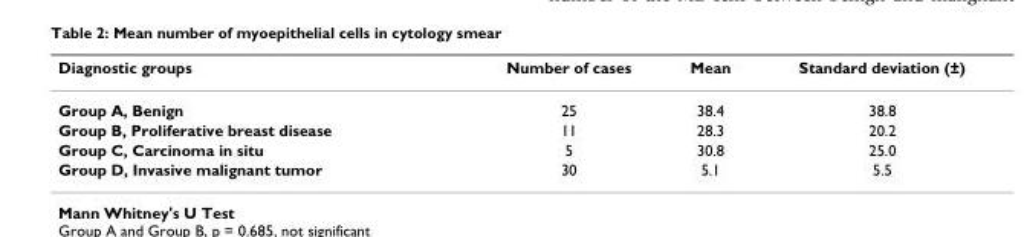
<table><thead><tr><td>Diagnostic groups</td><td>Number of cases</td><td>Mean</td><td>Standard deviation (±)</td></tr></thead><tbody><tr><td>Group A, Benign</td><td>25</td><td>38.4</td><td>38.8</td></tr><tr><td>Group B, Proliferative breast disease</td><td>11</td><td>28.3</td><td>20.2</td></tr><tr><td>Group C, Carcinoma in situ</td><td>5</td><td>30.8</td><td>25.0</td></tr><tr><td>Group D, Invasive malignant tumor</td><td>30</td><td>5.1</td><td>5.5</td></tr></tbody></table>